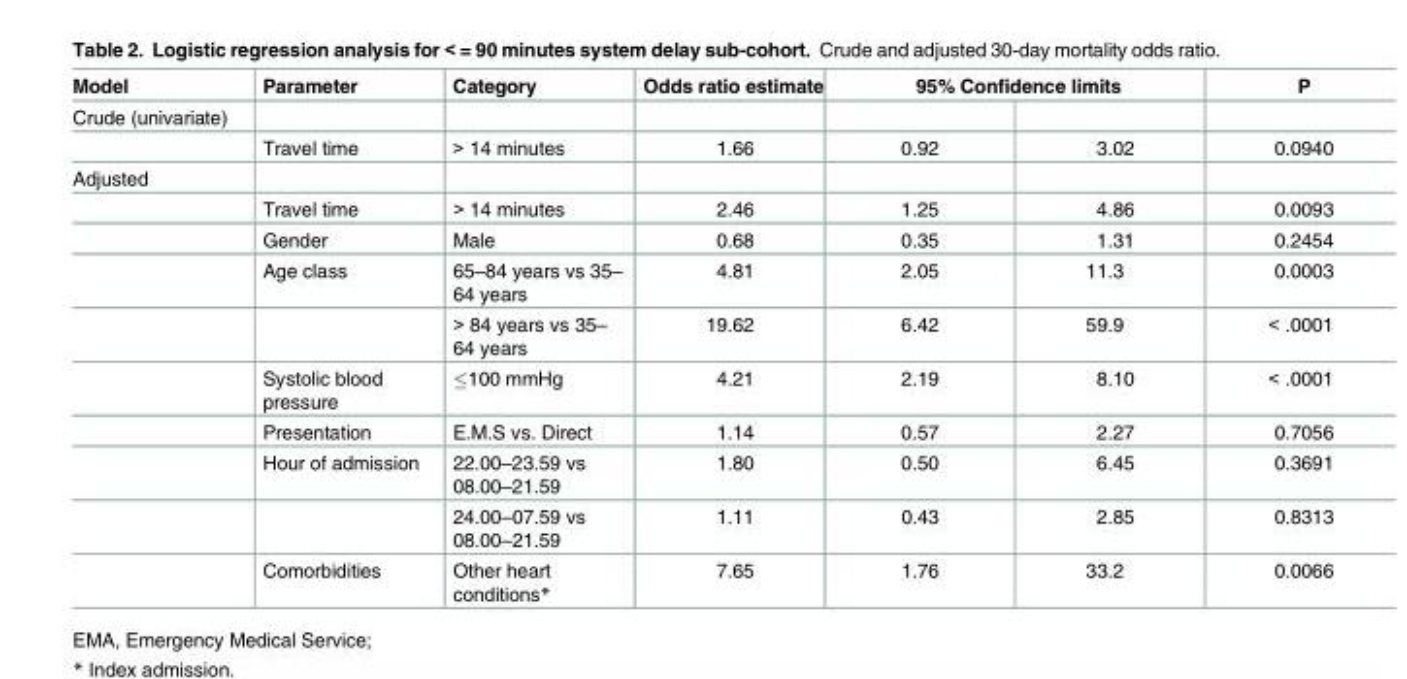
<table><thead><tr><td rowspan="2">Model Crude (univariate)</td><td rowspan="2">Parameter</td><td rowspan="2">Category</td><td rowspan="2">Odds ratio estimate</td><td colspan="2">95% Confidence limits</td><td rowspan="2">P</td></tr><tr><td></td><td></td></tr></thead><tbody><tr><td></td><td>Travel time</td><td>&gt; 14 minutes</td><td>1.66</td><td>0.92</td><td>3.02</td><td>0.0940</td></tr><tr><td colspan="7">Adjusted</td></tr><tr><td></td><td>Travel time</td><td>&gt; 14 minutes</td><td>2.46</td><td>1.25</td><td>4.86</td><td>0.0093</td></tr><tr><td></td><td>Gender</td><td>Male</td><td>0.68</td><td>0.35</td><td>1.31</td><td>0.2454</td></tr><tr><td></td><td>Age class</td><td>65–84 years vs 35– 64 years</td><td>4.81</td><td>2.05</td><td>11.3</td><td>0.0003</td></tr><tr><td></td><td></td><td>&gt; 84 years vs 35– 64 years</td><td>19.62</td><td>6.42</td><td>59.9</td><td>&lt; .0001</td></tr><tr><td></td><td>Systolic blood pressure</td><td>≤100 mmHg</td><td>4.21</td><td>2.19</td><td>8.10</td><td>&lt; .0001</td></tr><tr><td></td><td>Presentation</td><td>E.M.S vs. Direct</td><td>1.14</td><td>0.57</td><td>2.27</td><td>0.7056</td></tr><tr><td></td><td>Hour of admission</td><td>22.00–23.59 vs 08.00–21.59</td><td>1.80</td><td>0.50</td><td>6.45</td><td>0.3691</td></tr><tr><td></td><td></td><td>24.00–07.59 vs 08.00–21.59</td><td>1.11</td><td>0.43</td><td>2.85</td><td>0.8313</td></tr><tr><td></td><td>Comorbidities</td><td>Other heart conditions*</td><td>7.65</td><td>1.76</td><td>33.2</td><td>0.0066</td></tr></tbody></table>